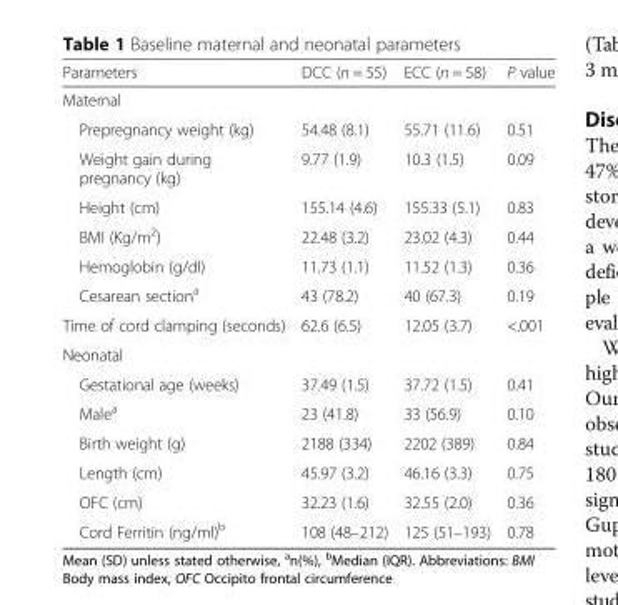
<table><thead><tr><td>Parameters</td><td>DCC (n = 55)</td><td>ECC (n = 58)</td><td>P value</td></tr></thead><tbody><tr><td colspan="4">Maternal</td></tr><tr><td>Prepregnancy weight (kg)</td><td>54.48 (8.1)</td><td>55.71 (11.6)</td><td>0.51</td></tr><tr><td>Weight gain during pregnancy (kg)</td><td>9.77 (1.9)</td><td>10.3 (1.5)</td><td>0.09</td></tr><tr><td>Height (cm)</td><td>155.14 (4.6)</td><td>155.33 (5.1)</td><td>0.83</td></tr><tr><td>BMI (Kg/m<sup>2</sup>)</td><td>22.48 (3.2)</td><td>23.02 (4.3)</td><td>0.44</td></tr><tr><td>Hemoglobin (g/dl)</td><td>11.73 (1.1)</td><td>11.52 (1.3)</td><td>0.36</td></tr><tr><td>Cesarean section<sup>a</sup></td><td>43 (78.2)</td><td>40 (67.3)</td><td>0.19</td></tr><tr><td>Time of cord clamping (seconds)</td><td>62.6 (6.5)</td><td>12.05 (3.7)</td><td>&lt;.001</td></tr><tr><td colspan="4">Neonatal</td></tr><tr><td>Gestational age (weeks)</td><td>37.49 (1.5)</td><td>37.72 (1.5)</td><td>0.41</td></tr><tr><td>Male<sup>a</sup></td><td>23 (41.8)</td><td>33 (56.9)</td><td>0.10</td></tr><tr><td>Birth weight (g)</td><td>2188 (334)</td><td>2202 (389)</td><td>0.84</td></tr><tr><td>Length (cm)</td><td>45.97 (3.2)</td><td>46.16 (3.3)</td><td>0.75</td></tr><tr><td>OFC (cm)</td><td>32.23 (1.6)</td><td>32.55 (2.0)</td><td>0.36</td></tr><tr><td>Cord Ferritin (ng/ml)<sup>b</sup></td><td>108 (48–212)</td><td>125 (51–193)</td><td>0.78</td></tr></tbody></table>